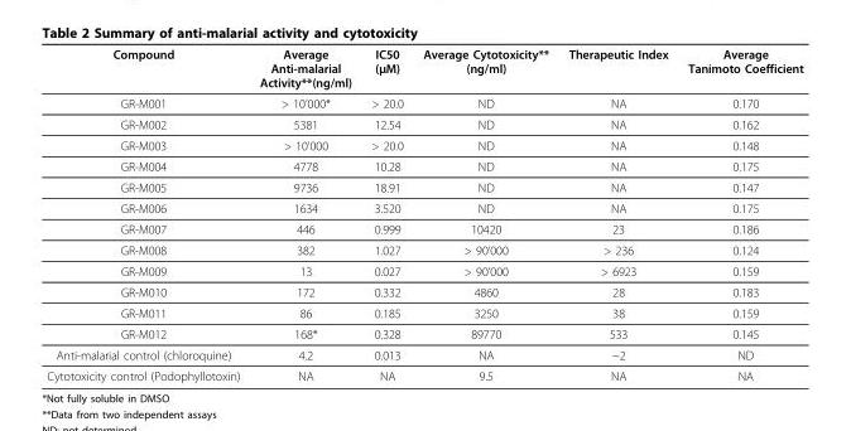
<table><thead><tr><td>Compound</td><td>Average Anti-malarial Activity**(ng/ml)</td><td>IC50 (μM)</td><td>Average Cytotoxicity** (ng/ml)</td><td>Therapeutic Index</td><td>Average Tanimoto Coefficient</td></tr></thead><tbody><tr><td>GR-M001</td><td>&gt; 10’000*</td><td>&gt; 20.0</td><td>ND</td><td>NA</td><td>0.170</td></tr><tr><td>GR-M002</td><td>5381</td><td>12.54</td><td>ND</td><td>NA</td><td>0.162</td></tr><tr><td>GR-M003</td><td>&gt; 10’000</td><td>&gt; 20.0</td><td>ND</td><td>NA</td><td>0.148</td></tr><tr><td>GR-M004</td><td>4778</td><td>10.28</td><td>ND</td><td>NA</td><td>0.175</td></tr><tr><td>GR-M005</td><td>9736</td><td>18.91</td><td>ND</td><td>NA</td><td>0.147</td></tr><tr><td>GR-M006</td><td>1634</td><td>3.520</td><td>ND</td><td>NA</td><td>0.175</td></tr><tr><td>GR-M007</td><td>446</td><td>0.999</td><td>10420</td><td>23</td><td>0.186</td></tr><tr><td>GR-M008</td><td>382</td><td>1.027</td><td>&gt; 90’000</td><td>&gt; 236</td><td>0.124</td></tr><tr><td>GR-M009</td><td>13</td><td>0.027</td><td>&gt; 90’000</td><td>&gt; 6923</td><td>0.159</td></tr><tr><td>GR-M010</td><td>172</td><td>0.332</td><td>4860</td><td>28</td><td>0.183</td></tr><tr><td>GR-M011</td><td>86</td><td>0.185</td><td>3250</td><td>38</td><td>0.159</td></tr><tr><td>GR-M012</td><td>168*</td><td>0.328</td><td>89770</td><td>533</td><td>0.145</td></tr><tr><td>Anti-malarial control (chloroquine)</td><td>4.2</td><td>0.013</td><td>NA</td><td>~2</td><td>ND</td></tr><tr><td>Cytotoxicity control (Podophyllotoxin)</td><td>NA</td><td>NA</td><td>9.5</td><td>NA</td><td>NA</td></tr></tbody></table>